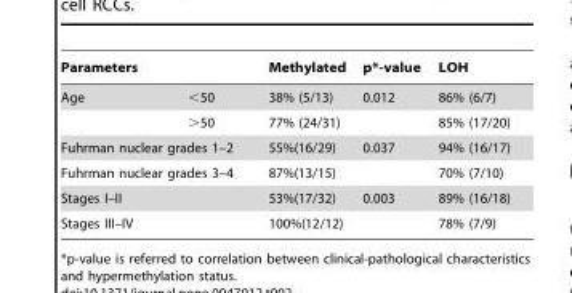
<table><thead><tr><td colspan="2">Parameters</td><td rowspan="2">Methylated 38% (5/13)</td><td rowspan="2">p*-value 0.012</td><td rowspan="2">LOH 86% (6/7)</td></tr><tr><td>Age</td><td>&lt;50</td></tr></thead><tbody><tr><td></td><td>&gt;50</td><td>77% (24/31)</td><td></td><td>85% (17/20)</td></tr><tr><td colspan="2">Fuhrman nuclear grades 1–2</td><td>55%(16/29)</td><td>0.037</td><td>94% (16/17)</td></tr><tr><td colspan="2">Fuhrman nuclear grades 3–4</td><td>87%(13/15)</td><td></td><td>70% (7/10)</td></tr><tr><td colspan="2">Stages I–II</td><td>53%(17/32)</td><td>0.003</td><td>89% (16/18)</td></tr><tr><td colspan="2">Stages III–IV</td><td>100%(12/12)</td><td></td><td>78% (7/9)</td></tr></tbody></table>